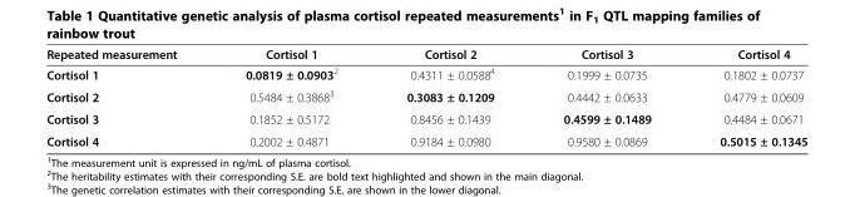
<table><thead><tr><td>Repeated measurement</td><td>Cortisol 1</td><td>Cortisol 2</td><td>Cortisol 3</td><td>Cortisol 4</td></tr></thead><tbody><tr><td>Cortisol 1</td><td>0.0819 ± 0.0903<sup>2</sup></td><td>0.4311 ± 0.0588<sup>4</sup></td><td>0.1999 ± 0.0735</td><td>0.1802 ± 0.0737</td></tr><tr><td>Cortisol 2</td><td>0.5484 ± 0.3868<sup>3</sup></td><td>0.3083 ± 0.1209</td><td>0.4442 ± 0.0633</td><td>0.4779 ± 0.0609</td></tr><tr><td>Cortisol 3</td><td>0.1852 ± 0.5172</td><td>0.8456 ± 0.1439</td><td>0.4599 ± 0.1489</td><td>0.4484 ± 0.0671</td></tr><tr><td>Cortisol 4</td><td>0.2002 ± 0.4871</td><td>0.9184 ± 0.0980</td><td>0.9580 ± 0.0869</td><td>0.5015 ± 0.1345</td></tr></tbody></table>